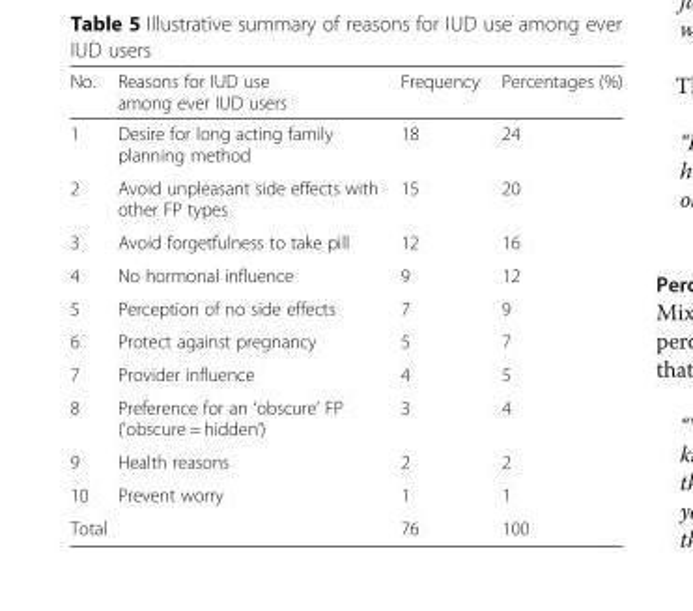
<table><thead><tr><td>No.</td><td>Reasons for IUD use among ever IUD users</td><td>Frequency</td><td>Percentages (%)</td></tr></thead><tbody><tr><td>1</td><td>Desire for long acting family planning method</td><td>18</td><td>24</td></tr><tr><td>2</td><td>Avoid unpleasant side effects with other FP types</td><td>15</td><td>20</td></tr><tr><td>3</td><td>Avoid forgetfulness to take pill</td><td>12</td><td>16</td></tr><tr><td>4</td><td>No hormonal influence</td><td>9</td><td>12</td></tr><tr><td>5</td><td>Perception of no side effects</td><td>7</td><td>9</td></tr><tr><td>6</td><td>Protect against pregnancy</td><td>5</td><td>7</td></tr><tr><td>7</td><td>Provider influence</td><td>4</td><td>5</td></tr><tr><td>8</td><td>Preference for an ‘obscure’ FP (‘obscure = hidden’)</td><td>3</td><td>4</td></tr><tr><td>9</td><td>Health reasons</td><td>2</td><td>2</td></tr><tr><td>10</td><td>Prevent worry</td><td>1</td><td>1</td></tr><tr><td colspan="2">Total</td><td>76</td><td>100</td></tr></tbody></table>